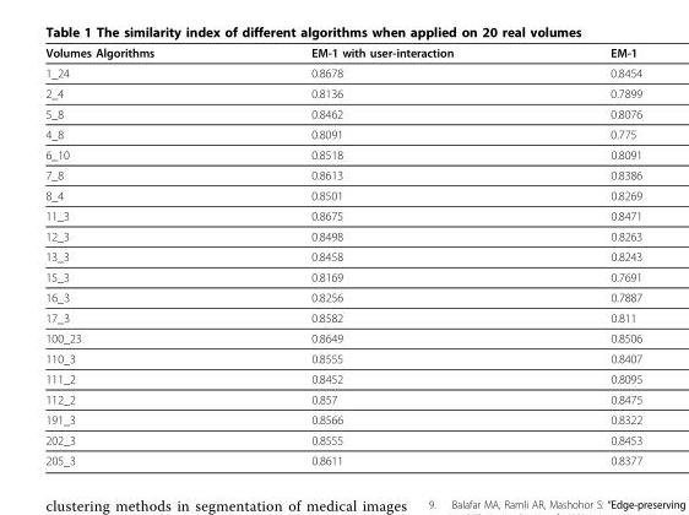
<table><thead><tr><td>Volumes Algorithms</td><td>EM-1 with user-interaction</td><td>EM-1</td></tr></thead><tbody><tr><td>1_24</td><td>0.8678</td><td>0.8454</td></tr><tr><td>2_4</td><td>0.8136</td><td>0.7899</td></tr><tr><td>5_8</td><td>0.8462</td><td>0.8076</td></tr><tr><td>4_8</td><td>0.8091</td><td>0.775</td></tr><tr><td>6_10</td><td>0.8518</td><td>0.8091</td></tr><tr><td>7_8</td><td>0.8613</td><td>0.8386</td></tr><tr><td>8_4</td><td>0.8501</td><td>0.8269</td></tr><tr><td>11_3</td><td>0.8675</td><td>0.8471</td></tr><tr><td>12_3</td><td>0.8498</td><td>0.8263</td></tr><tr><td>13_3</td><td>0.8458</td><td>0.8243</td></tr><tr><td>15_3</td><td>0.8169</td><td>0.7691</td></tr><tr><td>16_3</td><td>0.8256</td><td>0.7887</td></tr><tr><td>17_3</td><td>0.8582</td><td>0.811</td></tr><tr><td>100_23</td><td>0.8649</td><td>0.8506</td></tr><tr><td>110_3</td><td>0.8555</td><td>0.8407</td></tr><tr><td>111_2</td><td>0.8452</td><td>0.8095</td></tr><tr><td>112_2</td><td>0.857</td><td>0.8475</td></tr><tr><td>191_3</td><td>0.8566</td><td>0.8322</td></tr><tr><td>202_3</td><td>0.8555</td><td>0.8453</td></tr><tr><td>205_3</td><td>0.8611</td><td>0.8377</td></tr></tbody></table>